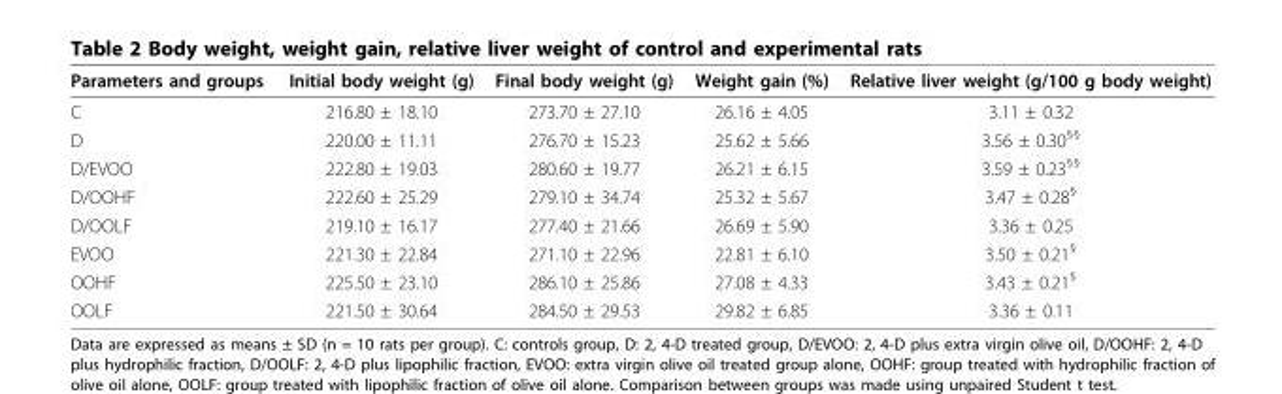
<table><thead><tr><td>Parameters and groups</td><td>Initial body weight (g)</td><td>Final body weight (g)</td><td>Weight gain (%)</td><td>Relative liver weight (g/100 g body weight)</td></tr></thead><tbody><tr><td>C</td><td>216.80 ± 18.10</td><td>273.70 ± 27.10</td><td>26.16 ± 4.05</td><td>3.11 ± 0.32</td></tr><tr><td>D</td><td>220.00 ± 11.11</td><td>276.70 ± 15.23</td><td>25.62 ± 5.66</td><td>3.56 ± 0.30<sup>§§</sup></td></tr><tr><td>D/EVOO</td><td>222.80 ± 19.03</td><td>280.60 ± 19.77</td><td>26.21 ± 6.15</td><td>3.59 ± 0.23<sup>§§</sup></td></tr><tr><td>D/OOHF</td><td>222.60 ± 25.29</td><td>279.10 ± 34.74</td><td>25.32 ± 5.67</td><td>3.47 ± 0.28<sup>§</sup></td></tr><tr><td>D/OOLF</td><td>219.10 ± 16.17</td><td>277.40 ± 21.66</td><td>26.69 ± 5.90</td><td>3.36 ± 0.25</td></tr><tr><td>EVOO</td><td>221.30 ± 22.84</td><td>271.10 ± 22.96</td><td>22.81 ± 6.10</td><td>3.50 ± 0.21<sup>§</sup></td></tr><tr><td>OOHF</td><td>225.50 ± 23.10</td><td>286.10 ± 25.86</td><td>27.08 ± 4.33</td><td>3.43 ± 0.21<sup>§</sup></td></tr><tr><td>OOLF</td><td>221.50 ± 30.64</td><td>284.50 ± 29.53</td><td>29.82 ± 6.85</td><td>3.36 ± 0.11</td></tr></tbody></table>